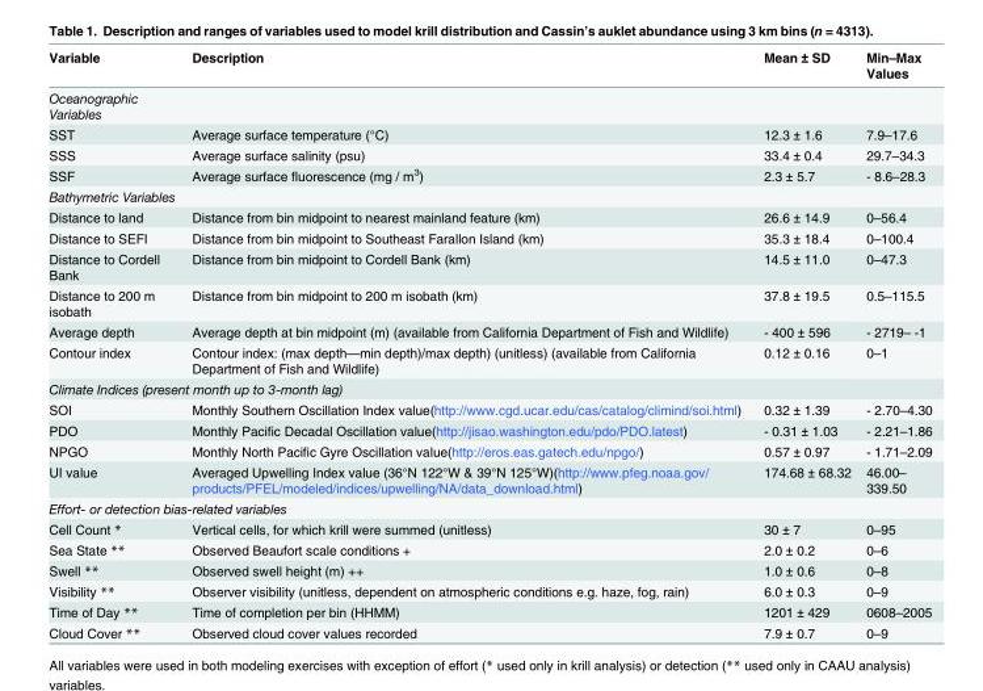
<table><thead><tr><td>Variable</td><td>Description</td><td>Mean ± SD</td><td>Min–Max Values</td></tr></thead><tbody><tr><td colspan="4">Oceanographic Variables</td></tr><tr><td>SST</td><td>Average surface temperature (°C)</td><td>12.3 ± 1.6</td><td>7.9–17.6</td></tr><tr><td>SSS</td><td>Average surface salinity (psu)</td><td>33.4 ± 0.4</td><td>29.7–34.3</td></tr><tr><td>SSF</td><td>Average surface fluorescence (mg / m<sup>3</sup>)</td><td>2.3 ± 5.7</td><td>- 8.6–28.3</td></tr><tr><td colspan="4">Bathymetric Variables</td></tr><tr><td>Distance to land</td><td>Distance from bin midpoint to nearest mainland feature (km)</td><td>26.6 ± 14.9</td><td>0–56.4</td></tr><tr><td>Distance to SEFI</td><td>Distance from bin midpoint to Southeast Farallon Island (km)</td><td>35.3 ± 18.4</td><td>0–100.4</td></tr><tr><td>Distance to Cordell Bank</td><td>Distance from bin midpoint to Cordell Bank (km)</td><td>14.5 ± 11.0</td><td>0–47.3</td></tr><tr><td>Distance to 200 m isobath</td><td>Distance from bin midpoint to 200 m isobath (km)</td><td>37.8 ± 19.5</td><td>0.5–115.5</td></tr><tr><td>Average depth</td><td>Average depth at bin midpoint (m) (available from California Department of Fish and Wildlife)</td><td>- 400 ± 596</td><td>- 2719– -1</td></tr><tr><td>Contour index</td><td>Contour index: (max depth—min depth)/max depth) (unitless) (available from California Department of Fish and Wildlife)</td><td>0.12 ± 0.16</td><td>0–1</td></tr><tr><td colspan="4">Climate Indices (present month up to 3-month lag)</td></tr><tr><td>SOI</td><td>Monthly Southern Oscillation Index value(http://www.cgd.ucar.edu/cas/catalog/climind/soi.html)</td><td>0.32 ± 1.39</td><td>- 2.70–4.30</td></tr><tr><td>PDO</td><td>Monthly Pacific Decadal Oscillation value(http://jisao.washington.edu/pdo/PDO.latest)</td><td>- 0.31 ± 1.03</td><td>- 2.21–1.86</td></tr><tr><td>NPGO</td><td>Monthly North Pacific Gyre Oscillation value(http://eros.eas.gatech.edu/npgo/)</td><td>0.57 ± 0.97</td><td>- 1.71–2.09</td></tr><tr><td>UI value</td><td>Averaged Upwelling Index value (36°N 122°W &amp; 39°N 125°W)(http://www.pfeg.noaa.gov/ products/PFEL/modeled/indices/upwelling/NA/data_download.html)</td><td>174.68 ± 68.32</td><td>46.00– 339.50</td></tr><tr><td colspan="4">Effort- or detection bias-related variables</td></tr><tr><td>Cell Count *</td><td>Vertical cells, for which krill were summed (unitless)</td><td>30 ± 7</td><td>0–95</td></tr><tr><td>Sea State **</td><td>Observed Beaufort scale conditions +</td><td>2.0 ± 0.2</td><td>0–6</td></tr><tr><td>Swell **</td><td>Observed swell height (m) ++</td><td>1.0 ± 0.6</td><td>0–8</td></tr><tr><td>Visibility **</td><td>Observer visibility (unitless, dependent on atmospheric conditions e.g. haze, fog, rain)</td><td>6.0 ± 0.3</td><td>0–9</td></tr><tr><td>Time of Day **</td><td>Time of completion per bin (HHMM)</td><td>1201 ± 429</td><td>0608–2005</td></tr><tr><td>Cloud Cover **</td><td>Observed cloud cover values recorded</td><td>7.9 ± 0.7</td><td>0–9</td></tr></tbody></table>